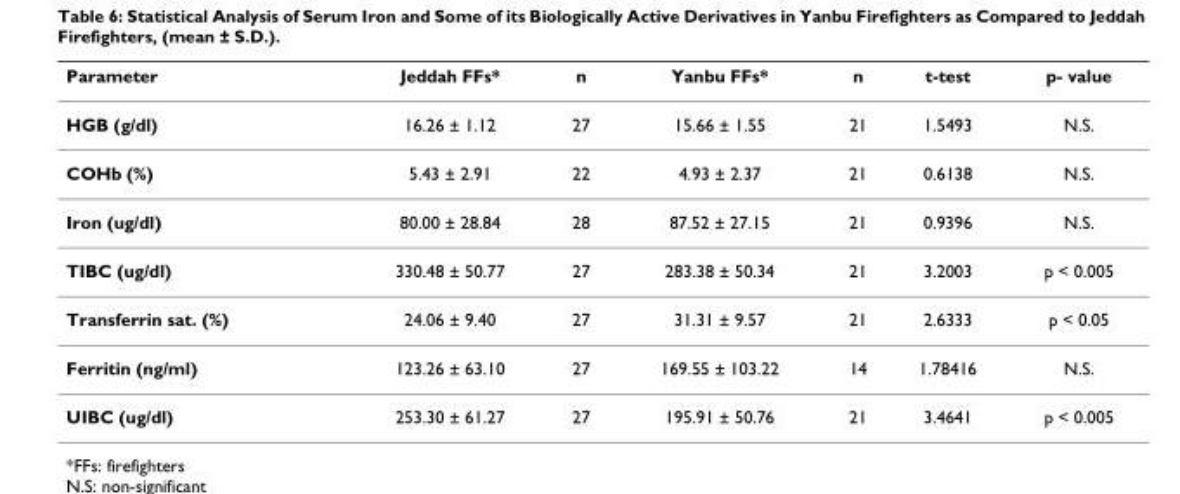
<table><thead><tr><td>Parameter</td><td>Jeddah FFs*</td><td>n</td><td>Yanbu FFs*</td><td>n</td><td>t-test</td><td>p- value</td></tr></thead><tbody><tr><td>HGB (g/dl)</td><td>16.26 ± 1.12</td><td>27</td><td>15.66 ± 1.55</td><td>21</td><td>1.5493</td><td>N.S.</td></tr><tr><td>COHb (%)</td><td>5.43 ± 2.91</td><td>22</td><td>4.93 ± 2.37</td><td>21</td><td>0.6138</td><td>N.S.</td></tr><tr><td>Iron (ug/dl)</td><td>80.00 ± 28.84</td><td>28</td><td>87.52 ± 27.15</td><td>21</td><td>0.9396</td><td>N.S.</td></tr><tr><td>TIBC (ug/dl)</td><td>330.48 ± 50.77</td><td>27</td><td>283.38 ± 50.34</td><td>21</td><td>3.2003</td><td>p &lt; 0.005</td></tr><tr><td>Transferrin sat. (%)</td><td>24.06 ± 9.40</td><td>27</td><td>31.31 ± 9.57</td><td>21</td><td>2.6333</td><td>p &lt; 0.05</td></tr><tr><td>Ferritin (ng/ml)</td><td>123.26 ± 63.10</td><td>27</td><td>169.55 ± 103.22</td><td>14</td><td>1.78416</td><td>N.S.</td></tr><tr><td>UIBC (ug/dl)</td><td>253.30 ± 61.27</td><td>27</td><td>195.91 ± 50.76</td><td>21</td><td>3.4641</td><td>p &lt; 0.005</td></tr></tbody></table>